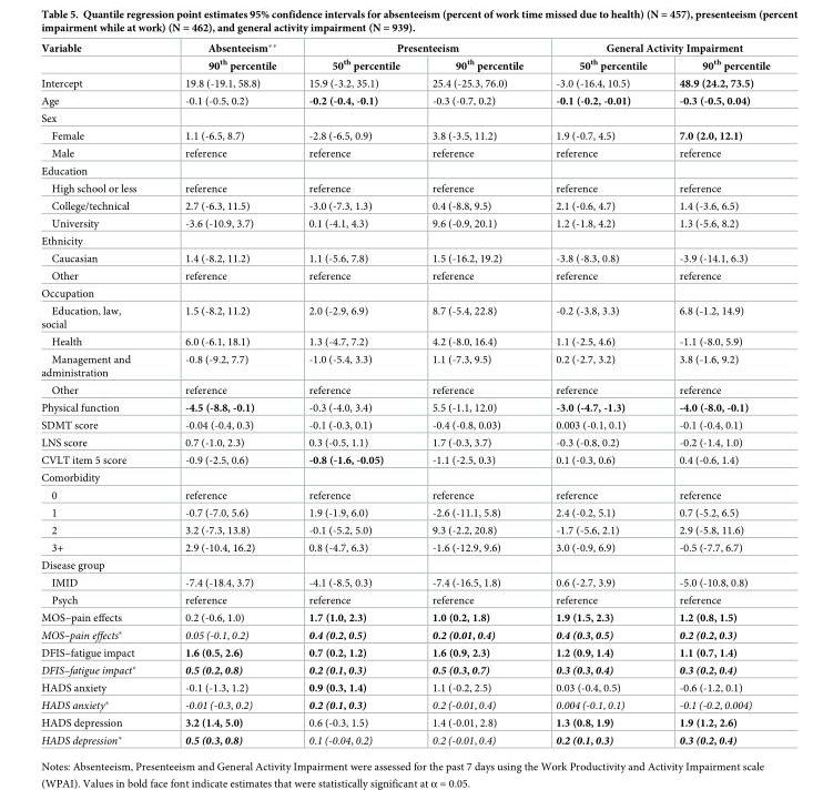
<table><thead><tr><td rowspan="2">Variable</td><td rowspan="2">Absenteeism** 90<sup>th</sup> percentile</td><td colspan="2">Presenteeism</td><td colspan="2">General Activity Impairment</td></tr><tr><td>50<sup>th</sup> percentile</td><td>90<sup>th</sup> percentile</td><td>50<sup>th</sup> percentile</td><td>90<sup>th</sup> percentile</td></tr></thead><tbody><tr><td>Intercept</td><td>19.8 (-19.1, 58.8)</td><td>15.9 (-3.2, 35.1)</td><td>25.4 (-25.3, 76.0)</td><td>-3.0 (-16.4, 10.5)</td><td>48.9 (24.2, 73.5)</td></tr><tr><td>Age</td><td>-0.1 (-0.5, 0.2)</td><td>-0.2 (-0.4, -0.1)</td><td>-0.3 (-0.7, 0.2)</td><td>-0.1 (-0.2, -0.01)</td><td>-0.3 (-0.5, 0.04)</td></tr><tr><td colspan="6">Sex</td></tr><tr><td>Female</td><td>1.1 (-6.5, 8.7)</td><td>-2.8 (-6.5, 0.9)</td><td>3.8 (-3.5, 11.2)</td><td>1.9 (-0.7, 4.5)</td><td>7.0 (2.0, 12.1)</td></tr><tr><td>Male</td><td>reference</td><td>reference</td><td>reference</td><td>reference</td><td>reference</td></tr><tr><td colspan="6">Education</td></tr><tr><td>High school or less</td><td>reference</td><td>reference</td><td>reference</td><td>reference</td><td>reference</td></tr><tr><td>College/technical</td><td>2.7 (-6.3, 11.5)</td><td>-3.0 (-7.3, 1.3)</td><td>0.4 (-8.8, 9.5)</td><td>2.1 (-0.6, 4.7)</td><td>1.4 (-3.6, 6.5)</td></tr><tr><td>University</td><td>-3.6 (-10.9, 3.7)</td><td>0.1 (-4.1, 4.3)</td><td>9.6 (-0.9, 20.1)</td><td>1.2 (-1.8, 4.2)</td><td>1.3 (-5.6, 8.2)</td></tr><tr><td colspan="6">Ethnicity</td></tr><tr><td>Caucasian</td><td>1.4 (-8.2, 11.2)</td><td>1.1 (-5.6, 7.8)</td><td>1.5 (-16.2, 19.2)</td><td>-3.8 (-8.3, 0.8)</td><td>-3.9 (-14.1, 6.3)</td></tr><tr><td>Other</td><td>reference</td><td>reference</td><td>reference</td><td>reference</td><td>reference</td></tr><tr><td colspan="6">Occupation</td></tr><tr><td>Education, law, social</td><td>1.5 (-8.2, 11.2)</td><td>2.0 (-2.9, 6.9)</td><td>8.7 (-5.4, 22.8)</td><td>-0.2 (-3.8, 3.3)</td><td>6.8 (-1.2, 14.9)</td></tr><tr><td>Health</td><td>6.0 (-6.1, 18.1)</td><td>1.3 (-4.7, 7.2)</td><td>4.2 (-8.0, 16.4)</td><td>1.1 (-2.5, 4.6)</td><td>-1.1 (-8.0, 5.9)</td></tr><tr><td>Management and administration</td><td>-0.8 (-9.2, 7.7)</td><td>-1.0 (-5.4, 3.3)</td><td>1.1 (-7.3, 9.5)</td><td>0.2 (-2.7, 3.2)</td><td>3.8 (-1.6, 9.2)</td></tr><tr><td>Other</td><td>reference</td><td>reference</td><td>reference</td><td>reference</td><td>reference</td></tr><tr><td>Physical function</td><td>-4.5 (-8.8, -0.1)</td><td>-0.3 (-4.0, 3.4)</td><td>5.5 (-1.1, 12.0)</td><td>-3.0 (-4.7, -1.3)</td><td>-4.0 (-8.0, -0.1)</td></tr><tr><td>SDMT score</td><td>-0.04 (-0.4, 0.3)</td><td>-0.1 (-0.3, 0.1)</td><td>-0.4 (-0.8, 0.03)</td><td>0.003 (-0.1, 0.1)</td><td>-0.1 (-0.4, 0.1)</td></tr><tr><td>LNS score</td><td>0.7 (-1.0, 2.3)</td><td>0.3 (-0.5, 1.1)</td><td>1.7 (-0.3, 3.7)</td><td>-0.3 (-0.8, 0.2)</td><td>-0.2 (-1.4, 1.0)</td></tr><tr><td>CVLT item 5 score</td><td>-0.9 (-2.5, 0.6)</td><td>-0.8 (-1.6, -0.05)</td><td>-1.1 (-2.5, 0.3)</td><td>0.1 (-0.3, 0.6)</td><td>0.4 (-0.6, 1.4)</td></tr><tr><td colspan="6">Comorbidity</td></tr><tr><td>0</td><td>reference</td><td>reference</td><td>reference</td><td>reference</td><td>reference</td></tr><tr><td>1</td><td>-0.7 (-7.0, 5.6)</td><td>1.9 (-1.9, 6.0)</td><td>-2.6 (-11.1, 5.8)</td><td>2.4 (-0.2, 5.1)</td><td>0.7 (-5.2, 6.5)</td></tr><tr><td>2</td><td>3.2 (-7.3, 13.8)</td><td>-0.1 (-5.2, 5.0)</td><td>9.3 (-2.2, 20.8)</td><td>-1.7 (-5.6, 2.1)</td><td>2.9 (-5.8, 11.6)</td></tr><tr><td>3+</td><td>2.9 (-10.4, 16.2)</td><td>0.8 (-4.7, 6.3)</td><td>-1.6 (-12.9, 9.6)</td><td>3.0 (-0.9, 6.9)</td><td>-0.5 (-7.7, 6.7)</td></tr><tr><td colspan="6">Disease group</td></tr><tr><td>IMID</td><td>-7.4 (-18.4, 3.7)</td><td>-4.1 (-8.5, 0.3)</td><td>-7.4 (-16.5, 1.8)</td><td>0.6 (-2.7, 3.9)</td><td>-5.0 (-10.8, 0.8)</td></tr><tr><td>Psych</td><td>reference</td><td>reference</td><td>reference</td><td>reference</td><td>reference</td></tr><tr><td>MOS–pain effects</td><td>0.2 (-0.6, 1.0)</td><td>1.7 (1.0, 2.3)</td><td>1.0 (0.2, 1.8)</td><td>1.9 (1.5, 2.3)</td><td>1.2 (0.8, 1.5)</td></tr><tr><td>MOS–pain effects*</td><td>0.05 (-0.1, 0.2)</td><td>0.4 (0.2, 0.5)</td><td>0.2 (0.01, 0.4)</td><td>0.4 (0.3, 0.5)</td><td>0.2 (0.2, 0.3)</td></tr><tr><td>DFIS–fatigue impact</td><td>1.6 (0.5, 2.6)</td><td>0.7 (0.2, 1.2)</td><td>1.6 (0.9, 2.3)</td><td>1.2 (0.9, 1.4)</td><td>1.1 (0.7, 1.4)</td></tr><tr><td>DFIS–fatigue impact*</td><td>0.5 (0.2, 0.8)</td><td>0.2 (0.1, 0.3)</td><td>0.5 (0.3, 0.7)</td><td>0.3 (0.3, 0.4)</td><td>0.3 (0.2, 0.4)</td></tr><tr><td>HADS anxiety</td><td>-0.1 (-1.3, 1.2)</td><td>0.9 (0.3, 1.4)</td><td>1.1 (-0.2, 2.5)</td><td>0.03 (-0.4, 0.5)</td><td>-0.6 (-1.2, 0.1)</td></tr><tr><td>HADS anxiety*</td><td>-0.01 (-0.3, 0.2)</td><td>0.2 (0.1, 0.3)</td><td>0.2 (-0.01, 0.4)</td><td>0.004 (-0.1, 0.1)</td><td>-0.1 (-0.2, 0.004)</td></tr><tr><td>HADS depression</td><td>3.2 (1.4, 5.0)</td><td>0.6 (-0.3, 1.5)</td><td>1.4 (-0.01, 2.8)</td><td>1.3 (0.8, 1.9)</td><td>1.9 (1.2, 2.6)</td></tr><tr><td>HADS depression*</td><td>0.5 (0.3, 0.8)</td><td>0.1 (-0.04, 0.2)</td><td>0.2 (-0.01, 0.4)</td><td>0.2 (0.1, 0.3)</td><td>0.3 (0.2, 0.4)</td></tr></tbody></table>